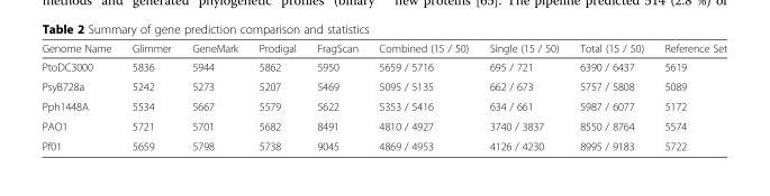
<table><thead><tr><td>Genome Name</td><td>Glimmer</td><td>GeneMark</td><td>Prodigal</td><td>FragScan</td><td>Combined (15 / 50)</td><td>Single (15 / 50)</td><td>Total (15 / 50)</td><td>Reference Set</td></tr></thead><tbody><tr><td>PtoDC3000</td><td>5836</td><td>5944</td><td>5862</td><td>5950</td><td>5659 / 5716</td><td>695 / 721</td><td>6390 / 6437</td><td>5619</td></tr><tr><td>PsyB728a</td><td>5242</td><td>5273</td><td>5207</td><td>5469</td><td>5095 / 5135</td><td>662 / 673</td><td>5757 / 5808</td><td>5089</td></tr><tr><td>Pph1448A</td><td>5534</td><td>5667</td><td>5579</td><td>5622</td><td>5353 / 5416</td><td>634 / 661</td><td>5987 / 6077</td><td>5172</td></tr><tr><td>PAO1</td><td>5721</td><td>5701</td><td>5682</td><td>8491</td><td>4810 / 4927</td><td>3740 / 3837</td><td>8550 / 8764</td><td>5574</td></tr><tr><td>Pf01</td><td>5659</td><td>5798</td><td>5738</td><td>9045</td><td>4869 / 4953</td><td>4126 / 4230</td><td>8995 / 9183</td><td>5722</td></tr></tbody></table>